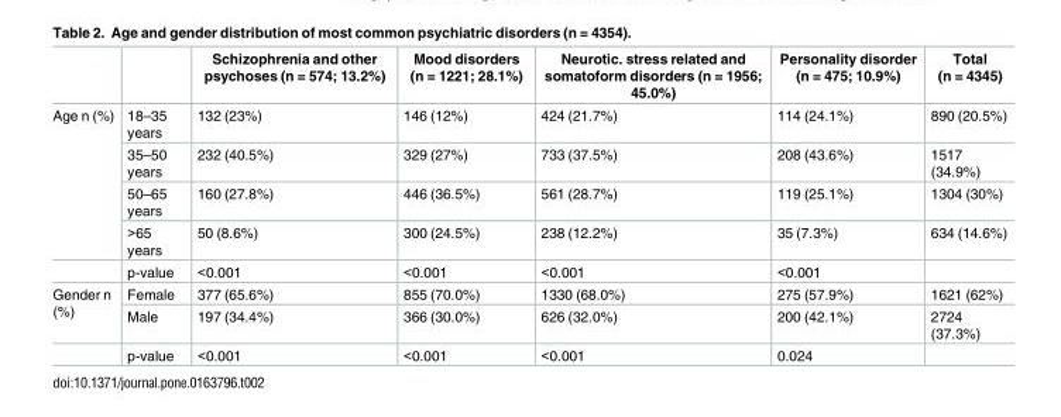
<table><thead><tr><td></td><td></td><td>Schizophrenia and other psychoses (n = 574; 13.2%)</td><td>Mood disorders (n = 1221; 28.1%)</td><td>Neurotic. stress related and somatoform disorders (n = 1956; 45.0%)</td><td>Personality disorder (n = 475; 10.9%)</td><td>Total (n = 4345)</td></tr></thead><tbody><tr><td rowspan="5">Age n (%)</td><td>18–35 years</td><td>132 (23%)</td><td>146 (12%)</td><td>424 (21.7%)</td><td>114 (24.1%)</td><td>890 (20.5%)</td></tr><tr><td>35–50 years</td><td>232 (40.5%)</td><td>329 (27%)</td><td>733 (37.5%)</td><td>208 (43.6%)</td><td>1517 (34.9%)</td></tr><tr><td>50–65 years</td><td>160 (27.8%)</td><td>446 (36.5%)</td><td>561 (28.7%)</td><td>119 (25.1%)</td><td>1304 (30%)</td></tr><tr><td>&gt;65 years</td><td>50 (8.6%)</td><td>300 (24.5%)</td><td>238 (12.2%)</td><td>35 (7.3%)</td><td>634 (14.6%)</td></tr><tr><td>p-value</td><td>&lt;0.001</td><td>&lt;0.001</td><td>&lt;0.001</td><td>&lt;0.001</td><td></td></tr><tr><td rowspan="3">Gender n (%)</td><td>Female</td><td>377 (65.6%)</td><td>855 (70.0%)</td><td>1330 (68.0%)</td><td>275 (57.9%)</td><td>1621 (62%)</td></tr><tr><td>Male</td><td>197 (34.4%)</td><td>366 (30.0%)</td><td>626 (32.0%)</td><td>200 (42.1%)</td><td>2724 (37.3%)</td></tr><tr><td>p-value</td><td>&lt;0.001</td><td>&lt;0.001</td><td>&lt;0.001</td><td>0.024</td><td></td></tr></tbody></table>